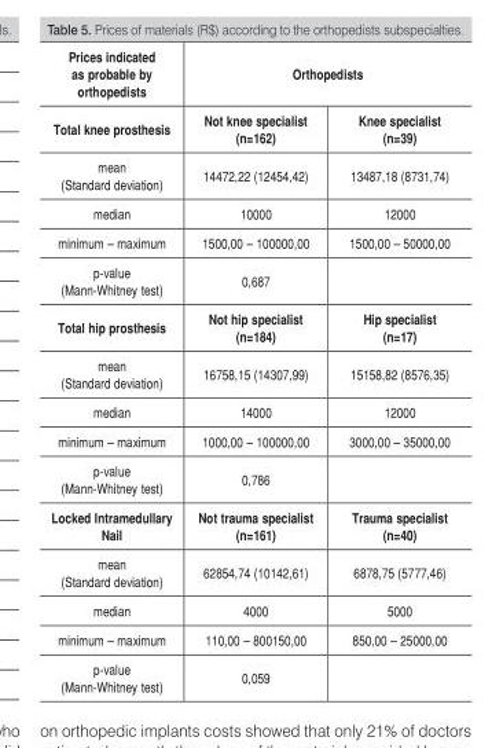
<table><thead><tr><td rowspan="2">Prices indicated as probable by orthopedists Total knee prosthesis</td><td colspan="2">Orthopedists</td></tr><tr><td>Not knee specialist (n=162)</td><td>Knee specialist (n=39)</td></tr></thead><tbody><tr><td>mean (Standard deviation)</td><td>14472,22 (12454,42)</td><td>13487,18 (8731,74)</td></tr><tr><td>median</td><td>10000</td><td>12000</td></tr><tr><td>minimum – maximum</td><td>1500,00 – 100000,00</td><td>1500,00 – 50000,00</td></tr><tr><td>p-value (Mann-Whitney test)</td><td>0,687</td><td></td></tr><tr><td>Total hip prosthesis</td><td>Not hip specialist (n=184)</td><td>Hip specialist (n=17)</td></tr><tr><td>mean (Standard deviation)</td><td>16758,15 (14307,99)</td><td>15158,82 (8576,35)</td></tr><tr><td>median</td><td>14000</td><td>12000</td></tr><tr><td>minimum – maximum</td><td>1000,00 – 100000,00</td><td>3000,00 – 35000,00</td></tr><tr><td>p-value (Mann-Whitney test)</td><td>0,786</td><td></td></tr><tr><td>Locked Intramedullary Nail</td><td>Not trauma specialist (n=161)</td><td>Trauma specialist (n=40)</td></tr><tr><td>mean (Standard deviation)</td><td>62854,74 (10142,61)</td><td>6878,75 (5777,46)</td></tr><tr><td>median</td><td>4000</td><td>5000</td></tr><tr><td>minimum – maximum</td><td>110,00 – 800150,00</td><td>850,00 – 25000,00</td></tr><tr><td>p-value (Mann-Whitney test)</td><td>0,059</td><td></td></tr></tbody></table>